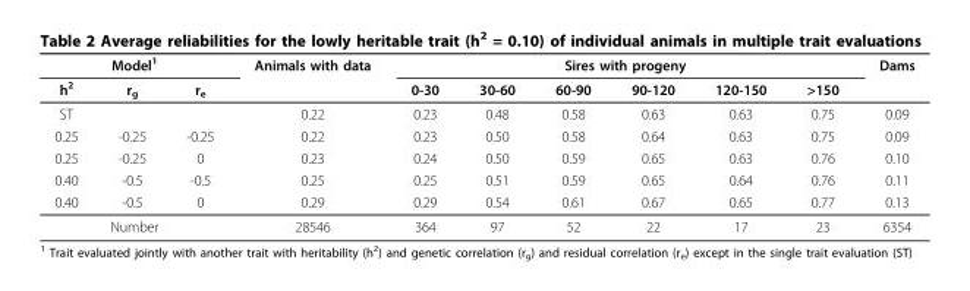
<table><thead><tr><td colspan="3">Model<sup>1</sup></td><td rowspan="2">Animals with data</td><td colspan="6">Sires with progeny</td><td rowspan="2">Dams</td></tr><tr><td>h<sup>2</sup></td><td>r<sub>g</sub></td><td>r<sub>e</sub></td><td>0-30</td><td>30-60</td><td>60-90</td><td>90-120</td><td>120-150</td><td>&gt;150</td></tr></thead><tbody><tr><td>ST</td><td></td><td></td><td>0.22</td><td>0.23</td><td>0.48</td><td>0.58</td><td>0.63</td><td>0.63</td><td>0.75</td><td>0.09</td></tr><tr><td>0.25</td><td>-0.25</td><td>-0.25</td><td>0.22</td><td>0.23</td><td>0.50</td><td>0.58</td><td>0.64</td><td>0.63</td><td>0.75</td><td>0.09</td></tr><tr><td>0.25</td><td>-0.25</td><td>0</td><td>0.23</td><td>0.24</td><td>0.50</td><td>0.59</td><td>0.65</td><td>0.63</td><td>0.76</td><td>0.10</td></tr><tr><td>0.40</td><td>-0.5</td><td>-0.5</td><td>0.25</td><td>0.25</td><td>0.51</td><td>0.59</td><td>0.65</td><td>0.64</td><td>0.76</td><td>0.11</td></tr><tr><td>0.40</td><td>-0.5</td><td>0</td><td>0.29</td><td>0.29</td><td>0.54</td><td>0.61</td><td>0.67</td><td>0.65</td><td>0.77</td><td>0.13</td></tr><tr><td colspan="3">Number</td><td>28546</td><td>364</td><td>97</td><td>52</td><td>22</td><td>17</td><td>23</td><td>6354</td></tr></tbody></table>